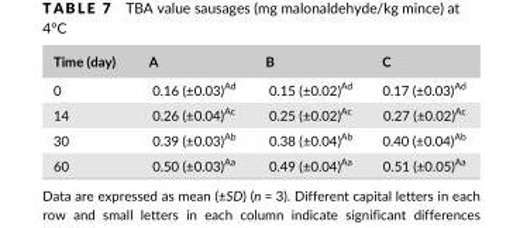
<table><thead><tr><td>Time (day)</td><td>A</td><td>B</td><td>C</td></tr></thead><tbody><tr><td>0</td><td>0.16 (±0.03)<sup>Ad</sup></td><td>0.15 (±0.02)<sup>Ad</sup></td><td>0.17 (±0.03)<sup>Ad</sup></td></tr><tr><td>14</td><td>0.26 (±0.04)<sup>Ac</sup></td><td>0.25 (±0.02)<sup>Ac</sup></td><td>0.27 (±0.02)<sup>Ac</sup></td></tr><tr><td>30</td><td>0.39 (±0.03)<sup>Ab</sup></td><td>0.38 (±0.04)<sup>Ab</sup></td><td>0.40 (±0.04)<sup>Ab</sup></td></tr><tr><td>60</td><td>0.50 (±0.03)<sup>Aa</sup></td><td>0.49 (±0.04)<sup>Aa</sup></td><td>0.51 (±0.05)<sup>Aa</sup></td></tr></tbody></table>